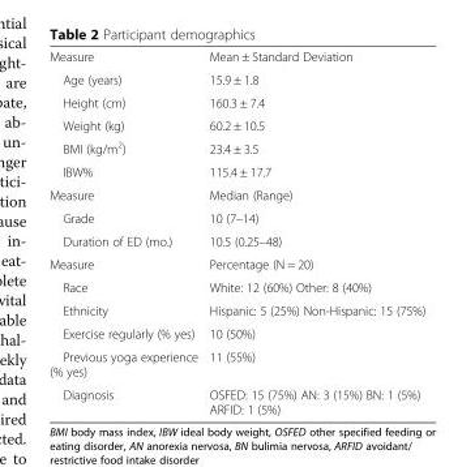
<table><tbody><tr><td>Measure</td><td>Mean ± Standard Deviation</td></tr><tr><td>Age (years)</td><td>15.9 ± 1.8</td></tr><tr><td>Height (cm)</td><td>160.3 ± 7.4</td></tr><tr><td>Weight (kg)</td><td>60.2 ± 10.5</td></tr><tr><td>BMI (kg/m<sup>2</sup>)</td><td>23.4 ± 3.5</td></tr><tr><td>IBW%</td><td>115.4 ± 17.7</td></tr><tr><td>Measure</td><td>Median (Range)</td></tr><tr><td>Grade</td><td>10 (7–14)</td></tr><tr><td>Duration of ED (mo.)</td><td>10.5 (0.25–48)</td></tr><tr><td>Measure</td><td>Percentage (N = 20)</td></tr><tr><td>Race</td><td>White: 12 (60%) Other: 8 (40%)</td></tr><tr><td>Ethnicity</td><td>Hispanic: 5 (25%) Non-Hispanic: 15 (75%)</td></tr><tr><td>Exercise regularly (% yes)</td><td>10 (50%)</td></tr><tr><td>Previous yoga experience (% yes)</td><td>11 (55%)</td></tr><tr><td>Diagnosis</td><td>OSFED: 15 (75%) AN: 3 (15%) BN: 1 (5%) ARFID: 1 (5%)</td></tr></tbody></table>